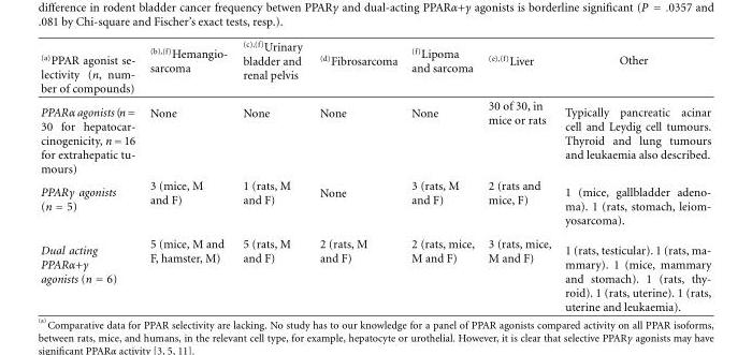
<table><thead><tr><td>(a)PPAR agonist se- lectivity (n, num- ber of compounds)</td><td><sup>(b),(f)</sup>Hemangio- sarcoma</td><td><sup>(c),(f)</sup>Urinary bladder and renal pelvis</td><td><sup>(d)</sup>Fibrosarcoma</td><td><sup>(f)</sup>Lipoma and sarcoma</td><td><sup>(e),(f)</sup>Liver</td><td>Other</td></tr></thead><tbody><tr><td>PPARα agonists (n= 30 for hepatocar- cinogenicity, n=16 for extrahepatic tu- mours)</td><td>None</td><td>None</td><td>None</td><td>None</td><td>30 of 30, in mice or rats</td><td>Typically pancreatic acinar cell and Leydig cell tumours. Thyroid and lung tumours and leukaemia also described.</td></tr><tr><td>PPARγ agonists (n = 5)</td><td>3 (mice, M and F)</td><td>1 (rats, M and F)</td><td>None</td><td>3 (rats, M and F)</td><td>2 (rats and mice, F)</td><td>1 (mice, gallbladder adeno- ma). 1 (rats, stomach, leiom- yosarcoma).</td></tr><tr><td>Dual acting PPARα+γ agonists (n = 6)</td><td>5 (mice, M and F, hamster, M)</td><td>5 (rats, M and F)</td><td>2 (rats, M and F)</td><td>2 (rats, mice, M and F)</td><td>3 (rats, mice, M and F)</td><td>1 (rats, testicular). 1 (rats, ma- mmary). 1 (mice, mammary and stomach). 1 (rats, thy- roid). 1 (rats, uterine). 1 (rats, uterine and leukaemia).</td></tr></tbody></table>